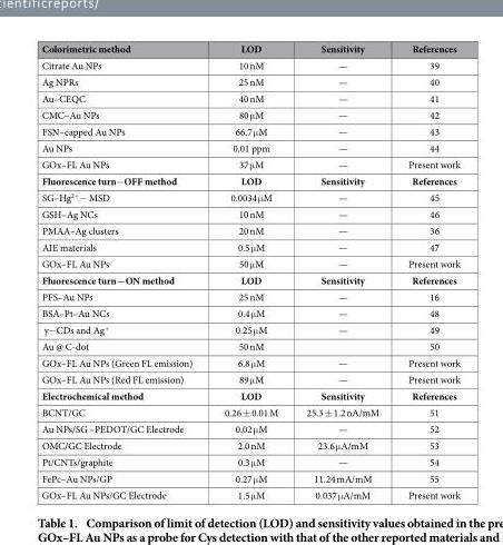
<table><thead><tr><td>Colorimetric method</td><td>LOD</td><td>Sensitivity</td><td>References</td></tr></thead><tbody><tr><td>Citrate Au NPs</td><td>10 nM</td><td>—</td><td>39</td></tr><tr><td>Ag NPRs</td><td>25 nM</td><td>—</td><td>40</td></tr><tr><td>Au–CEQC</td><td>40 nM</td><td>—</td><td>41</td></tr><tr><td>CMC–Au NPs</td><td>80 μ M</td><td>—</td><td>42</td></tr><tr><td>FSN–capped Au NPs</td><td>66.7 μ M</td><td>—</td><td>43</td></tr><tr><td>Au NPs</td><td>0.01 ppm</td><td>—</td><td>44</td></tr><tr><td>GOx–FL Au NPs</td><td>37 μ M</td><td>—</td><td>Present work</td></tr><tr><td>Fluorescence turn−OFF method</td><td>LOD</td><td>Sensitivity</td><td>References</td></tr><tr><td>SG–Hg<sup>2+</sup>− MSD</td><td>0.0034 μ M</td><td>—</td><td>45</td></tr><tr><td>GSH–Ag NCs</td><td>10 nM</td><td>—</td><td>46</td></tr><tr><td>PMAA–Ag clusters</td><td>20 nM</td><td>—</td><td>36</td></tr><tr><td>AIE materials</td><td>0.5 μ M</td><td>—</td><td>47</td></tr><tr><td>GOx–FL Au NPs</td><td>50 μM</td><td>—</td><td>Present work</td></tr><tr><td>Fluorescence turn− ON method</td><td>LOD</td><td>Sensitivity</td><td>References</td></tr><tr><td>PFS–Au NPs</td><td>25 nM</td><td>—</td><td>16</td></tr><tr><td>BSA–Pt–Au NCs</td><td>0.4 μ M</td><td>—</td><td>48</td></tr><tr><td>y− CDs and Ag<sup>+</sup></td><td>0.25 μ M</td><td>—</td><td>49</td></tr><tr><td>Au @ C-dot</td><td>50 nM</td><td></td><td>50</td></tr><tr><td>GOx–FL Au NPs (Green FL emission)</td><td>6.8 μ M</td><td>—</td><td>Present work</td></tr><tr><td>GOx–FL Au NPs (Red FL emission)</td><td>89 μ M</td><td>—</td><td>Present work</td></tr><tr><td>Electrochemical method</td><td>LOD</td><td>Sensitivity</td><td>References</td></tr><tr><td>BCNT/GC</td><td>0.26 ± 0.01 M</td><td>25.3 ± 1.2 nA/mM</td><td>51</td></tr><tr><td>Au NPs/SG –PEDOT/GC Electrode</td><td>0.02 μ M</td><td>—</td><td>52</td></tr><tr><td>OMC/GC Electrode</td><td>2.0 nM</td><td>23.6 μ A/mM</td><td>53</td></tr><tr><td>Pt/CNTs/graphite</td><td>0.3 μ M</td><td>—</td><td>54</td></tr><tr><td>FePc–Au NPs/GP</td><td>0.27 μ M</td><td>11.24 mA/mM</td><td>55</td></tr><tr><td>GOx–FL Au NPs/GC Electrode</td><td>1.5 μ M</td><td>0.037 μ A/mM</td><td>Present work</td></tr></tbody></table>